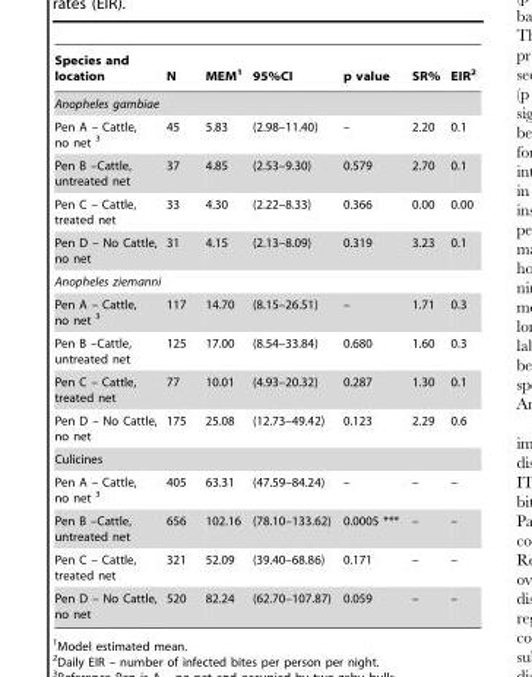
<table><thead><tr><td>Species and location</td><td>N</td><td>MEM<sup>1</sup></td><td>95%CI</td><td>p value</td><td>SR%</td><td>EIR<sup>2</sup></td></tr></thead><tbody><tr><td colspan="7">Anopheles gambiae</td></tr><tr><td>Pen A – Cattle, no net 3</td><td>45</td><td>5.83</td><td>(2.98–11.40)</td><td>–</td><td>2.20</td><td>0.1</td></tr><tr><td>Pen B –Cattle, untreated net</td><td>37</td><td>4.85</td><td>(2.53–9.30)</td><td>0.579</td><td>2.70</td><td>0.1</td></tr><tr><td>Pen C – Cattle, treated net</td><td>33</td><td>4.30</td><td>(2.22–8.33)</td><td>0.366</td><td>0.00</td><td>0.00</td></tr><tr><td>Pen D – No Cattle, no net</td><td>31</td><td>4.15</td><td>(2.13–8.09)</td><td>0.319</td><td>3.23</td><td>0.1</td></tr><tr><td colspan="7">Anopheles ziemanni</td></tr><tr><td>Pen A – Cattle, no net 3</td><td>117</td><td>14.70</td><td>(8.15–26.51)</td><td>–</td><td>1.71</td><td>0.3</td></tr><tr><td>Pen B –Cattle, untreated net</td><td>125</td><td>17.00</td><td>(8.54–33.84)</td><td>0.680</td><td>1.60</td><td>0.3</td></tr><tr><td>Pen C – Cattle, treated net</td><td>77</td><td>10.01</td><td>(4.93–20.32)</td><td>0.287</td><td>1.30</td><td>0.1</td></tr><tr><td>Pen D – No Cattle, no net</td><td>175</td><td>25.08</td><td>(12.73–49.42)</td><td>0.123</td><td>2.29</td><td>0.6</td></tr><tr><td colspan="7">Culicines</td></tr><tr><td>Pen A – Cattle, no net 3</td><td>405</td><td>63.31</td><td>(47.59–84.24)</td><td>–</td><td>–</td><td>–</td></tr><tr><td>Pen B –Cattle, untreated net</td><td>656</td><td>102.16</td><td>(78.10–133.62)</td><td>0.0005 ***</td><td>–</td><td>–</td></tr><tr><td>Pen C – Cattle, treated net</td><td>321</td><td>52.09</td><td>(39.40–68.86)</td><td>0.171</td><td>–</td><td>–</td></tr><tr><td>Pen D – No Cattle, no net</td><td>520</td><td>82.24</td><td>(62.70–107.87)</td><td>0.059</td><td>–</td><td>–</td></tr></tbody></table>